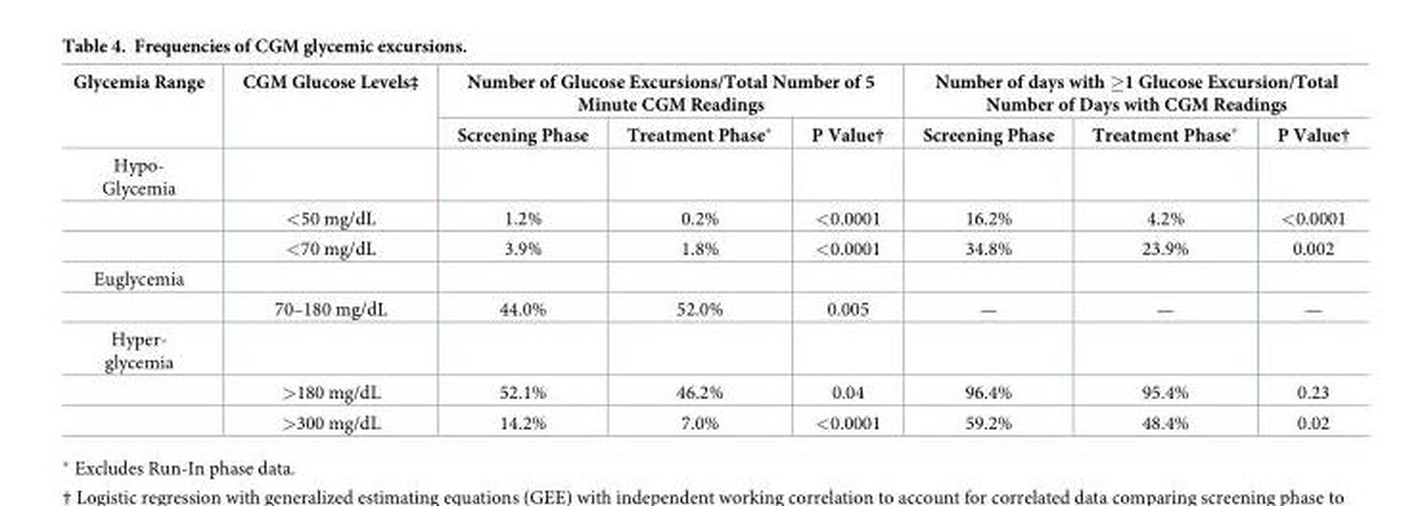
<table><thead><tr><td rowspan="2">Glycemia Range</td><td rowspan="2">CGM Glucose Levels‡</td><td colspan="3">Number of Glucose Excursions/Total Number of 5 Minute CGM Readings</td><td colspan="3">Number of days with ≥1 Glucose Excursion/Total Number of Days with CGM Readings</td></tr><tr><td>Screening Phase</td><td>Treatment Phase*</td><td>P Value†</td><td>Screening Phase</td><td>Treatment Phase*</td><td>P Value†</td></tr></thead><tbody><tr><td colspan="8">Hypo- Glycemia</td></tr><tr><td></td><td>&lt;50 mg/dL</td><td>1.2%</td><td>0.2%</td><td>&lt;0.0001</td><td>16.2%</td><td>4.2%</td><td>&lt;0.0001</td></tr><tr><td></td><td>&lt;70 mg/dL</td><td>3.9%</td><td>1.8%</td><td>&lt;0.0001</td><td>34.8%</td><td>23.9%</td><td>0.002</td></tr><tr><td colspan="8">Euglycemia</td></tr><tr><td></td><td>70–180 mg/dL</td><td>44.0%</td><td>52.0%</td><td>0.005</td><td>—</td><td>—</td><td>—</td></tr><tr><td colspan="8">Hyper- glycemia</td></tr><tr><td></td><td>&gt;180 mg/dL</td><td>52.1%</td><td>46.2%</td><td>0.04</td><td>96.4%</td><td>95.4%</td><td>0.23</td></tr><tr><td></td><td>&gt;300 mg/dL</td><td>14.2%</td><td>7.0%</td><td>&lt;0.0001</td><td>59.2%</td><td>48.4%</td><td>0.02</td></tr></tbody></table>